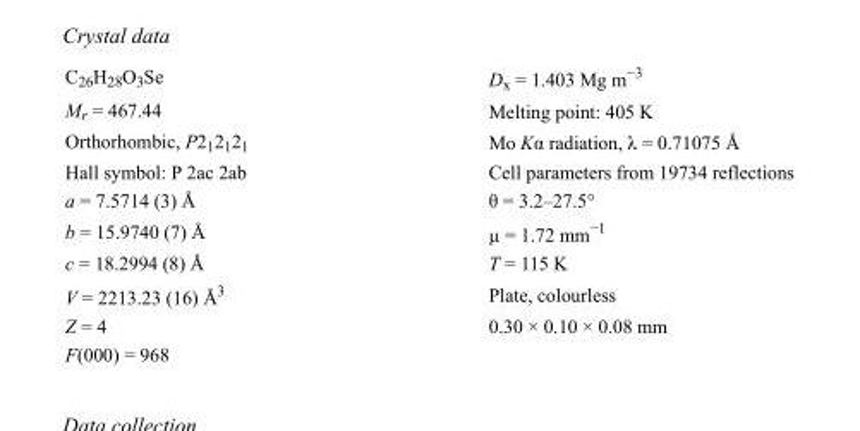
<table><tbody><tr><td>C<sub>26</sub>H<sub>28</sub>O<sub>3</sub>Se</td><td>D<sub>x</sub> = 1.403 Mg m<sup>−3</sup></td></tr><tr><td>M<sub>r</sub> = 467.44</td><td>Melting point: 405 K</td></tr><tr><td>Orthorhombic, P2<sub>1</sub>2<sub>1</sub>2<sub>1</sub></td><td>Mo Kα radiation, λ = 0.71075 Å</td></tr><tr><td>Hall symbol: P 2ac 2ab</td><td>Cell parameters from 19734 reflections</td></tr><tr><td>a = 7.5714 (3) Å</td><td>θ = 3.2–27.5°</td></tr><tr><td>b = 15.9740 (7) Å</td><td>µ = 1.72 mm<sup>−1</sup></td></tr><tr><td>c = 18.2994 (8) Å</td><td>T = 115 K</td></tr><tr><td>V = 2213.23 (16) Å<sup>3</sup></td><td>Plate, colourless</td></tr><tr><td>Z = 4</td><td>0.30 × 0.10 × 0.08 mm</td></tr><tr><td>F(000) = 968</td><td></td></tr></tbody></table>